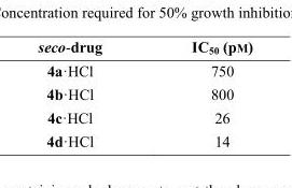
<table><thead><tr><td>seco-drug</td><td>IC<sub>50</sub> (pM)</td></tr></thead><tbody><tr><td>4a·HCl</td><td>750</td></tr><tr><td>4b·HCl</td><td>800</td></tr><tr><td>4c·HCl</td><td>26</td></tr><tr><td>4d·HCl</td><td>14</td></tr></tbody></table>